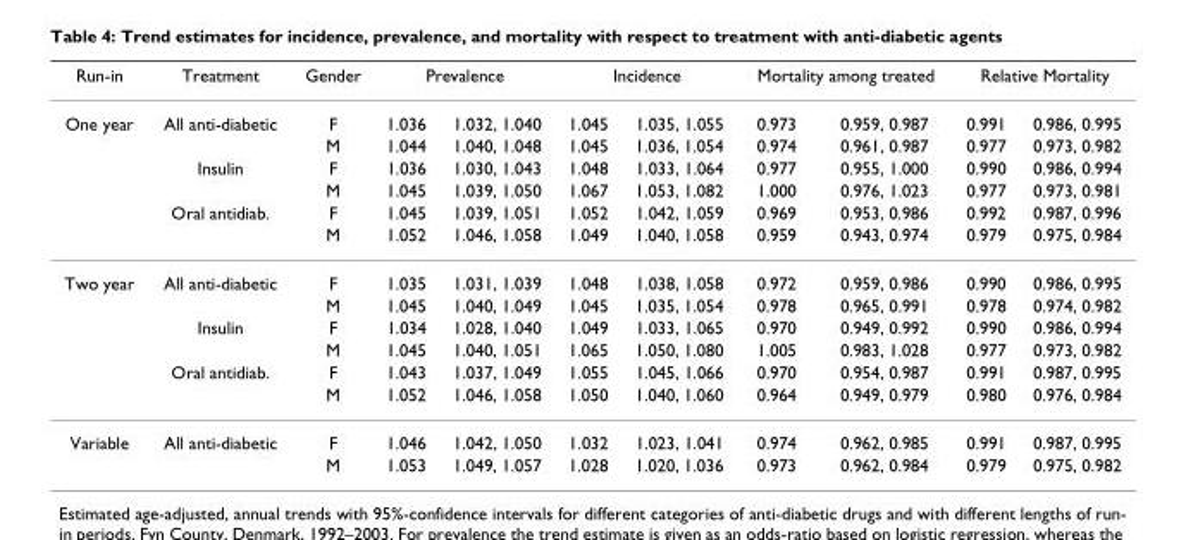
<table><thead><tr><td rowspan="2">Run-in One year</td><td rowspan="2">Treatment All anti-diabetic</td><td rowspan="2">Gender F</td><td colspan="2">Prevalence</td><td colspan="2">Incidence</td><td colspan="2">Mortality among treated</td><td colspan="2">Relative Mortality</td></tr><tr><td>1.036</td><td>1.032, 1.040</td><td>1.045</td><td>1.035, 1.055</td><td>0.973</td><td>0.959, 0.987</td><td>0.991</td><td>0.986, 0.995</td></tr></thead><tbody><tr><td></td><td></td><td>M</td><td>1.044</td><td>1.040, 1.048</td><td>1.045</td><td>1.036, 1.054</td><td>0.974</td><td>0.961, 0.987</td><td>0.977</td><td>0.973, 0.982</td></tr><tr><td></td><td>Insulin</td><td>F</td><td>1.036</td><td>1.030, 1.043</td><td>1.048</td><td>1.033, 1.064</td><td>0.977</td><td>0.955, 1.000</td><td>0.990</td><td>0.986, 0.994</td></tr><tr><td></td><td></td><td>M</td><td>1.045</td><td>1.039, 1.050</td><td>1.067</td><td>1.053, 1.082</td><td>1.000</td><td>0.976, 1.023</td><td>0.977</td><td>0.973, 0.981</td></tr><tr><td></td><td>Oral antidiab.</td><td>F</td><td>1.045</td><td>1.039, 1.051</td><td>1.052</td><td>1.042, 1.059</td><td>0.969</td><td>0.953, 0.986</td><td>0.992</td><td>0.987, 0.996</td></tr><tr><td></td><td></td><td>M</td><td>1.052</td><td>1.046, 1.058</td><td>1.049</td><td>1.040, 1.058</td><td>0.959</td><td>0.943, 0.974</td><td>0.979</td><td>0.975, 0.984</td></tr><tr><td rowspan="6">Two year</td><td>All anti-diabetic</td><td>F</td><td>1.035</td><td>1.031, 1.039</td><td>1.048</td><td>1.038, 1.058</td><td>0.972</td><td>0.959, 0.986</td><td>0.990</td><td>0.986, 0.995</td></tr><tr><td></td><td>M</td><td>1.045</td><td>1.040, 1.049</td><td>1.045</td><td>1.035, 1.054</td><td>0.978</td><td>0.965, 0.991</td><td>0.978</td><td>0.974, 0.982</td></tr><tr><td>Insulin</td><td>F</td><td>1.034</td><td>1.028, 1.040</td><td>1.049</td><td>1.033, 1.065</td><td>0.970</td><td>0.949, 0.992</td><td>0.990</td><td>0.986, 0.994</td></tr><tr><td></td><td>M</td><td>1.045</td><td>1.040, 1.051</td><td>1.065</td><td>1.050, 1.080</td><td>1.005</td><td>0.983, 1.028</td><td>0.977</td><td>0.973, 0.982</td></tr><tr><td>Oral antidiab.</td><td>F</td><td>1.043</td><td>1.037, 1.049</td><td>1.055</td><td>1.045, 1.066</td><td>0.970</td><td>0.954, 0.987</td><td>0.991</td><td>0.987, 0.995</td></tr><tr><td></td><td>M</td><td>1.052</td><td>1.046, 1.058</td><td>1.050</td><td>1.040, 1.060</td><td>0.964</td><td>0.949, 0.979</td><td>0.980</td><td>0.976, 0.984</td></tr><tr><td rowspan="2">Variable</td><td>All anti-diabetic</td><td>F</td><td>1.046</td><td>1.042, 1.050</td><td>1.032</td><td>1.023, 1.041</td><td>0.974</td><td>0.962, 0.985</td><td>0.991</td><td>0.987, 0.995</td></tr><tr><td></td><td>M</td><td>1.053</td><td>1.049, 1.057</td><td>1.028</td><td>1.020, 1.036</td><td>0.973</td><td>0.962, 0.984</td><td>0.979</td><td>0.975, 0.982</td></tr></tbody></table>